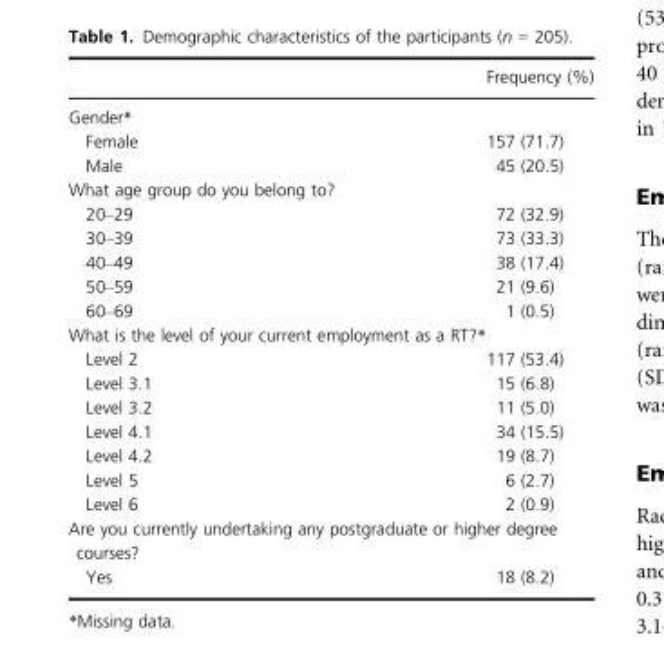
<table><thead><tr><td></td><td>Frequency (%)</td></tr></thead><tbody><tr><td colspan="2">Gender*</td></tr><tr><td>Female</td><td>157 (71.7)</td></tr><tr><td>Male</td><td>45 (20.5)</td></tr><tr><td colspan="2">What age group do you belong to?</td></tr><tr><td>20–29</td><td>72 (32.9)</td></tr><tr><td>30–39</td><td>73 (33.3)</td></tr><tr><td>40–49</td><td>38 (17.4)</td></tr><tr><td>50–59</td><td>21 (9.6)</td></tr><tr><td>60–69</td><td>1 (0.5)</td></tr><tr><td colspan="2">What is the level of your current employment as a RT?*</td></tr><tr><td>Level 2</td><td>117 (53.4)</td></tr><tr><td>Level 3.1</td><td>15 (6.8)</td></tr><tr><td>Level 3.2</td><td>11 (5.0)</td></tr><tr><td>Level 4.1</td><td>34 (15.5)</td></tr><tr><td>Level 4.2</td><td>19 (8.7)</td></tr><tr><td>Level 5</td><td>6 (2.7)</td></tr><tr><td>Level 6</td><td>2 (0.9)</td></tr><tr><td colspan="2">Are you currently undertaking any postgraduate or higher degree courses?</td></tr><tr><td>Yes</td><td>18 (8.2)</td></tr></tbody></table>